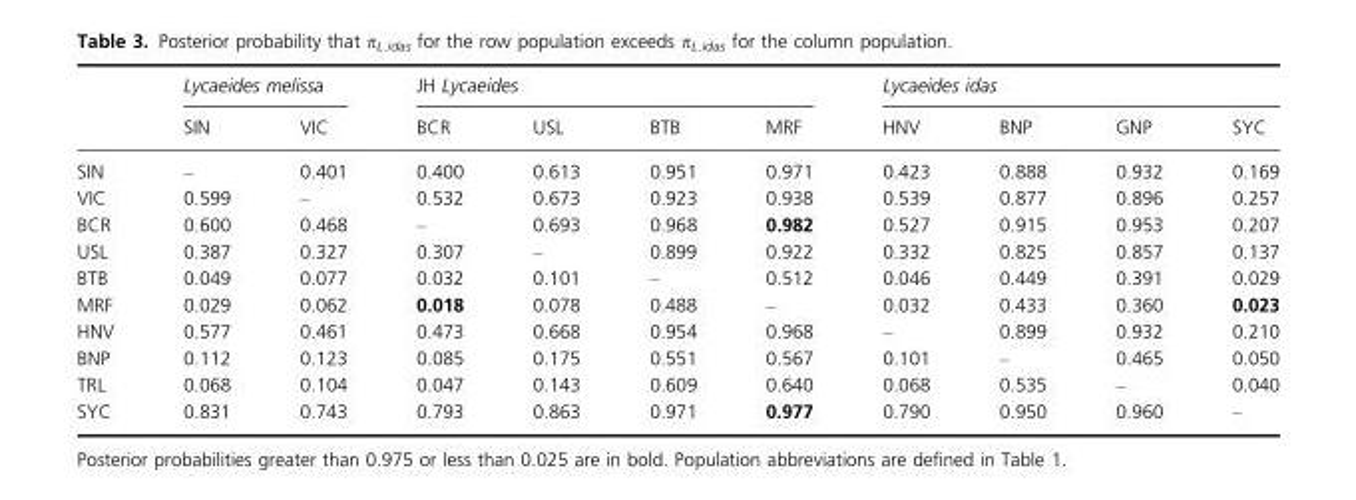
<table><thead><tr><td rowspan="2"></td><td colspan="2">Lycaeides melissa</td><td colspan="4">JH Lycaeides</td><td colspan="4">Lycaeides idas</td></tr><tr><td>SIN</td><td>VIC</td><td>BCR</td><td>USL</td><td>BTB</td><td>MRF</td><td>HNV</td><td>BNP</td><td>GNP</td><td>SYC</td></tr></thead><tbody><tr><td>SIN</td><td>–</td><td>0.401</td><td>0.400</td><td>0.613</td><td>0.951</td><td>0.971</td><td>0.423</td><td>0.888</td><td>0.932</td><td>0.169</td></tr><tr><td>VIC</td><td>0.599</td><td>–</td><td>0.532</td><td>0.673</td><td>0.923</td><td>0.938</td><td>0.539</td><td>0.877</td><td>0.896</td><td>0.257</td></tr><tr><td>BCR</td><td>0.600</td><td>0.468</td><td>–</td><td>0.693</td><td>0.968</td><td>0.982</td><td>0.527</td><td>0.915</td><td>0.953</td><td>0.207</td></tr><tr><td>USL</td><td>0.387</td><td>0.327</td><td>0.307</td><td>–</td><td>0.899</td><td>0.922</td><td>0.332</td><td>0.825</td><td>0.857</td><td>0.137</td></tr><tr><td>BTB</td><td>0.049</td><td>0.077</td><td>0.032</td><td>0.101</td><td>–</td><td>0.512</td><td>0.046</td><td>0.449</td><td>0.391</td><td>0.029</td></tr><tr><td>MRF</td><td>0.029</td><td>0.062</td><td>0.018</td><td>0.078</td><td>0.488</td><td>–</td><td>0.032</td><td>0.433</td><td>0.360</td><td>0.023</td></tr><tr><td>HNV</td><td>0.577</td><td>0.461</td><td>0.473</td><td>0.668</td><td>0.954</td><td>0.968</td><td>–</td><td>0.899</td><td>0.932</td><td>0.210</td></tr><tr><td>BNP</td><td>0.112</td><td>0.123</td><td>0.085</td><td>0.175</td><td>0.551</td><td>0.567</td><td>0.101</td><td>–</td><td>0.465</td><td>0.050</td></tr><tr><td>TRL</td><td>0.068</td><td>0.104</td><td>0.047</td><td>0.143</td><td>0.609</td><td>0.640</td><td>0.068</td><td>0.535</td><td>–</td><td>0.040</td></tr><tr><td>SYC</td><td>0.831</td><td>0.743</td><td>0.793</td><td>0.863</td><td>0.971</td><td>0.977</td><td>0.790</td><td>0.950</td><td>0.960</td><td>–</td></tr></tbody></table>